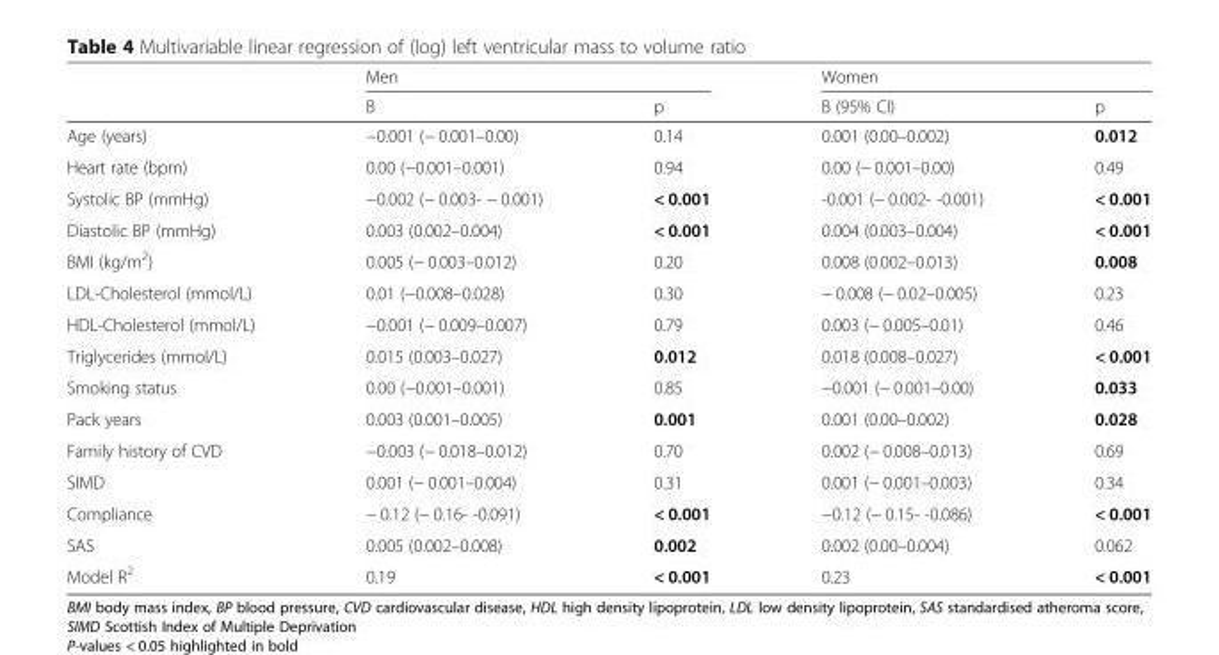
<table><thead><tr><td rowspan="2"></td><td colspan="2">Men</td><td colspan="2">Women</td></tr><tr><td>B</td><td>p</td><td>B (95% CI)</td><td>p</td></tr></thead><tbody><tr><td>Age (years)</td><td>−0.001 (− 0.001–0.00)</td><td>0.14</td><td>0.001 (0.00–0.002)</td><td>0.012</td></tr><tr><td>Heart rate (bpm)</td><td>0.00 (−0.001–0.001)</td><td>0.94</td><td>0.00 (− 0.001–0.00)</td><td>0.49</td></tr><tr><td>Systolic BP (mmHg)</td><td>−0.002 (− 0.003- − 0.001)</td><td>&lt; 0.001</td><td>-0.001 (− 0.002- -0.001)</td><td>&lt; 0.001</td></tr><tr><td>Diastolic BP (mmHg)</td><td>0.003 (0.002–0.004)</td><td>&lt; 0.001</td><td>0.004 (0.003–0.004)</td><td>&lt; 0.001</td></tr><tr><td>BMI (kg/m<sup>2</sup>)</td><td>0.005 (− 0.003–0.012)</td><td>0.20</td><td>0.008 (0.002–0.013)</td><td>0.008</td></tr><tr><td>LDL-Cholesterol (mmol/L)</td><td>0.01 (−0.008–0.028)</td><td>0.30</td><td>− 0.008 (− 0.02–0.005)</td><td>0.23</td></tr><tr><td>HDL-Cholesterol (mmol/L)</td><td>−0.001 (− 0.009–0.007)</td><td>0.79</td><td>0.003 (− 0.005–0.01)</td><td>0.46</td></tr><tr><td>Triglycerides (mmol/L)</td><td>0.015 (0.003–0.027)</td><td>0.012</td><td>0.018 (0.008–0.027)</td><td>&lt; 0.001</td></tr><tr><td>Smoking status</td><td>0.00 (−0.001–0.001)</td><td>0.85</td><td>−0.001 (− 0.001–0.00)</td><td>0.033</td></tr><tr><td>Pack years</td><td>0.003 (0.001–0.005)</td><td>0.001</td><td>0.001 (0.00–0.002)</td><td>0.028</td></tr><tr><td>Family history of CVD</td><td>−0.003 (− 0.018–0.012)</td><td>0.70</td><td>0.002 (− 0.008–0.013)</td><td>0.69</td></tr><tr><td>SIMD</td><td>0.001 (− 0.001–0.004)</td><td>0.31</td><td>0.001 (− 0.001–0.003)</td><td>0.34</td></tr><tr><td>Compliance</td><td>− 0.12 (− 0.16- -0.091)</td><td>&lt; 0.001</td><td>−0.12 (− 0.15- -0.086)</td><td>&lt; 0.001</td></tr><tr><td>SAS</td><td>0.005 (0.002–0.008)</td><td>0.002</td><td>0.002 (0.00–0.004)</td><td>0.062</td></tr><tr><td>Model R<sup>2</sup></td><td>0.19</td><td>&lt; 0.001</td><td>0.23</td><td>&lt; 0.001</td></tr></tbody></table>